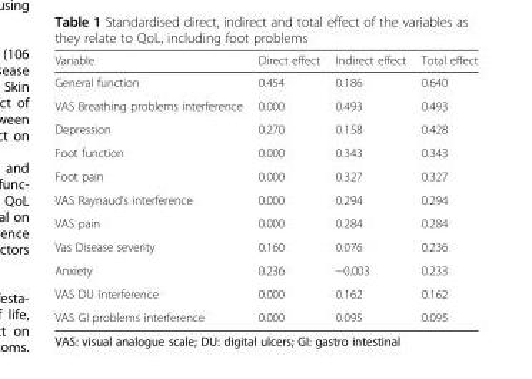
<table><thead><tr><td>Variable</td><td>Direct effect</td><td>Indirect effect</td><td>Total effect</td></tr></thead><tbody><tr><td>General function</td><td>0.454</td><td>0.186</td><td>0.640</td></tr><tr><td>VAS Breathing problems interference</td><td>0.000</td><td>0.493</td><td>0.493</td></tr><tr><td>Depression</td><td>0.270</td><td>0.158</td><td>0.428</td></tr><tr><td>Foot function</td><td>0.000</td><td>0.343</td><td>0.343</td></tr><tr><td>Foot pain</td><td>0.000</td><td>0.327</td><td>0.327</td></tr><tr><td>VAS Raynaud’s interference</td><td>0.000</td><td>0.294</td><td>0.294</td></tr><tr><td>VAS pain</td><td>0.000</td><td>0.284</td><td>0.284</td></tr><tr><td>Vas Disease severity</td><td>0.160</td><td>0.076</td><td>0.236</td></tr><tr><td>Anxiety</td><td>0.236</td><td>−0.003</td><td>0.233</td></tr><tr><td>VAS DU interference</td><td>0.000</td><td>0.162</td><td>0.162</td></tr><tr><td>VAS GI problems interference</td><td>0.000</td><td>0.095</td><td>0.095</td></tr></tbody></table>